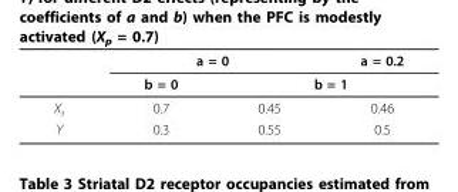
<table><thead><tr><td rowspan="3">X<sub>s</sub></td><td colspan="2">a = 0</td><td>a = 0.2</td></tr><tr><td rowspan="2">b = 0 0.7</td><td colspan="2">b = 1</td></tr><tr><td>0.45</td><td>0.46</td></tr></thead><tbody><tr><td>Y</td><td>0.3</td><td>0.55</td><td>0.5</td></tr></tbody></table>